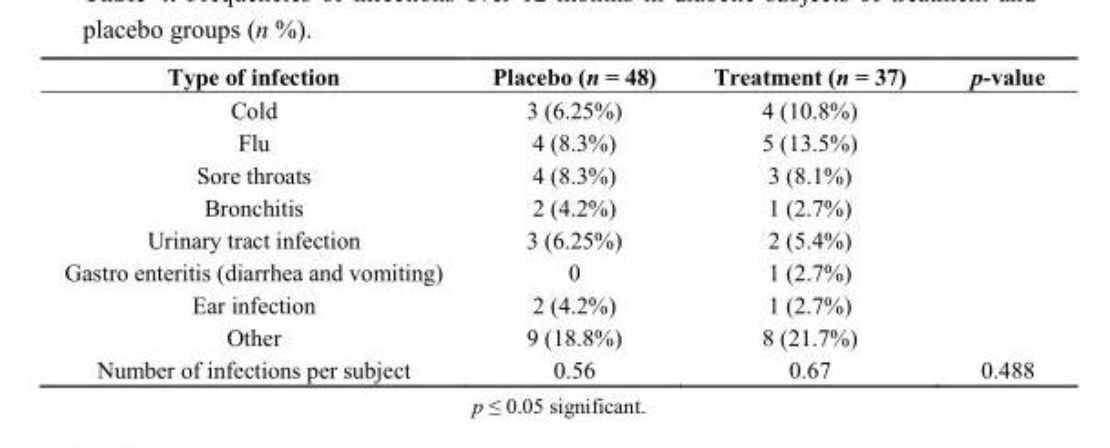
<table><thead><tr><td>Type of infection</td><td>Placebo (n = 48)</td><td>Treatment (n = 37)</td><td>p-value</td></tr></thead><tbody><tr><td>Cold</td><td>3 (6.25%)</td><td>4 (10.8%)</td><td></td></tr><tr><td>Flu</td><td>4 (8.3%)</td><td>5 (13.5%)</td><td></td></tr><tr><td>Sore throats</td><td>4 (8.3%)</td><td>3 (8.1%)</td><td></td></tr><tr><td>Bronchitis</td><td>2 (4.2%)</td><td>1 (2.7%)</td><td></td></tr><tr><td>Urinary tract infection</td><td>3 (6.25%)</td><td>2 (5.4%)</td><td></td></tr><tr><td>Gastro enteritis (diarrhea and vomiting)</td><td>0</td><td>1 (2.7%)</td><td></td></tr><tr><td>Ear infection</td><td>2 (4.2%)</td><td>1 (2.7%)</td><td></td></tr><tr><td>Other</td><td>9 (18.8%)</td><td>8 (21.7%)</td><td></td></tr><tr><td>Number of infections per subject</td><td>0.56</td><td>0.67</td><td>0.488</td></tr></tbody></table>